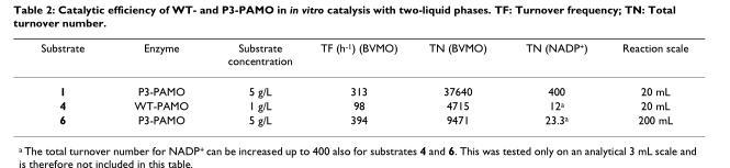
<table><thead><tr><td>Substrate</td><td>Enzyme</td><td>Substrate concentration</td><td>TF (h<sup>-1</sup>) (BVMO)</td><td>TN (BVMO)</td><td>TN (NADP<sup>+</sup>)</td><td>Reaction scale</td></tr></thead><tbody><tr><td>1</td><td>P3-PAMO</td><td>5 g/L</td><td>313</td><td>37640</td><td>400</td><td>20 mL</td></tr><tr><td>4</td><td>WT-PAMO</td><td>1 g/L</td><td>98</td><td>4715</td><td>12<sup>a</sup></td><td>20 mL</td></tr><tr><td>6</td><td>P3-PAMO</td><td>5 g/L</td><td>394</td><td>9471</td><td>23.3<sup>a</sup></td><td>200 mL</td></tr></tbody></table>